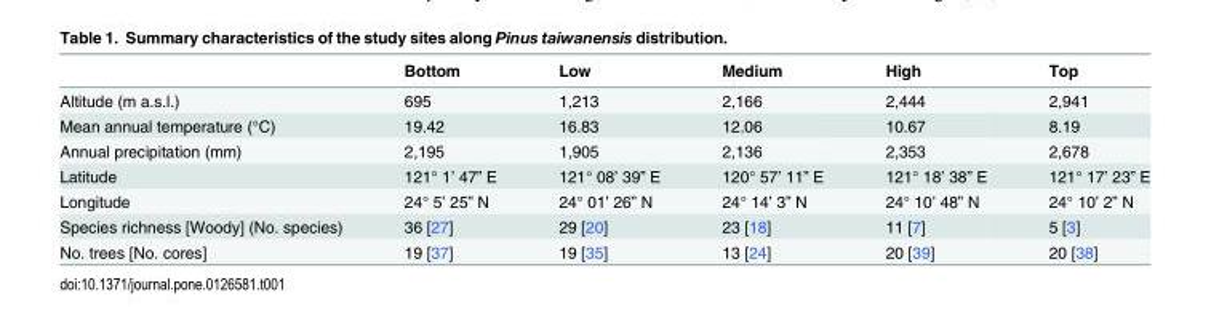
<table><thead><tr><td></td><td>Bottom</td><td>Low</td><td>Medium</td><td>High</td><td>Top</td></tr></thead><tbody><tr><td>Altitude (m a.s.l.)</td><td>695</td><td>1,213</td><td>2,166</td><td>2,444</td><td>2,941</td></tr><tr><td>Mean annual temperature (°C)</td><td>19.42</td><td>16.83</td><td>12.06</td><td>10.67</td><td>8.19</td></tr><tr><td>Annual precipitation (mm)</td><td>2,195</td><td>1,905</td><td>2,136</td><td>2,353</td><td>2,678</td></tr><tr><td>Latitude</td><td>121° 1’ 47” E</td><td>121° 08’ 39” E</td><td>120° 57’ 11” E</td><td>121° 18’ 38” E</td><td>121° 17’ 23” E</td></tr><tr><td>Longitude</td><td>24° 5’ 25” N</td><td>24° 01’ 26” N</td><td>24° 14’ 3” N</td><td>24° 10’ 48” N</td><td>24° 10’ 2” N</td></tr><tr><td>Species richness [Woody] (No. species)</td><td>36 [27]</td><td>29 [20]</td><td>23 [18]</td><td>11 [7]</td><td>5 [3]</td></tr><tr><td>No. trees [No. cores]</td><td>19 [37]</td><td>19 [35]</td><td>13 [24]</td><td>20 [39]</td><td>20 [38]</td></tr></tbody></table>